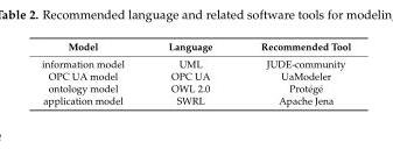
<table><thead><tr><td>Model</td><td>Language</td><td>Recommended Tool</td></tr></thead><tbody><tr><td>information model</td><td>UML</td><td>JUDE-community</td></tr><tr><td>OPC UA model</td><td>OPC UA</td><td>UaModeler</td></tr><tr><td>ontology model</td><td>OWL 2.0</td><td>Protégé</td></tr><tr><td>application model</td><td>SWRL</td><td>Apache Jena</td></tr></tbody></table>